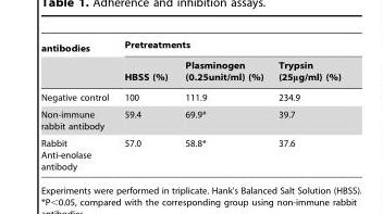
<table><thead><tr><td rowspan="2">antibodies</td><td colspan="3">Pretreatments</td></tr><tr><td>HBSS (%)</td><td>Plasminogen (0.25unit/ml) (%)</td><td>Trypsin (25μg/ml) (%)</td></tr></thead><tbody><tr><td>Negative control</td><td>100</td><td>111.9</td><td>234.9</td></tr><tr><td>Non-immune rabbit antibody</td><td>59.4</td><td>69.9*</td><td>39.7</td></tr><tr><td>Rabbit Anti-enolase antibody</td><td>57.0</td><td>58.8*</td><td>37.6</td></tr></tbody></table>